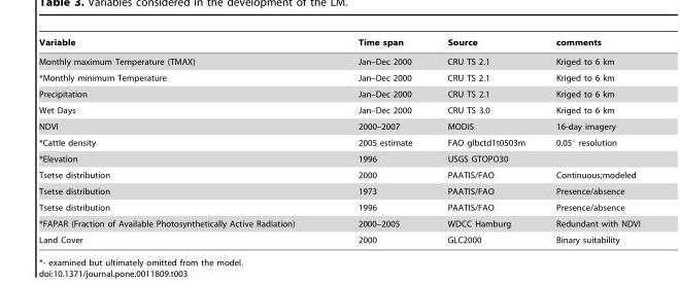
<table><thead><tr><td>Variable</td><td>Time span</td><td>Source</td><td>comments</td></tr></thead><tbody><tr><td>Monthly maximum Temperature (TMAX)</td><td>Jan–Dec 2000</td><td>CRU TS 2.1</td><td>Kriged to 6 km</td></tr><tr><td>*Monthly minimum Temperature</td><td>Jan–Dec 2000</td><td>CRU TS 2.1</td><td>Kriged to 6 km</td></tr><tr><td>Precipitation</td><td>Jan–Dec 2000</td><td>CRU TS 2.1</td><td>Kriged to 6 km</td></tr><tr><td>Wet Days</td><td>Jan–Dec 2000</td><td>CRU TS 3.0</td><td>Kriged to 6 km</td></tr><tr><td>NDVI</td><td>2000–2007</td><td>MODIS</td><td>16-day imagery</td></tr><tr><td>*Cattle density</td><td>2005 estimate</td><td>FAO glbctd1t0503m</td><td>0.05° resolution</td></tr><tr><td>*Elevation</td><td>1996</td><td>USGS GTOPO30</td><td></td></tr><tr><td>Tsetse distribution</td><td>2000</td><td>PAATIS/FAO</td><td>Continuous;modeled</td></tr><tr><td>Tsetse distribution</td><td>1973</td><td>PAATIS/FAO</td><td>Presence/absence</td></tr><tr><td>Tsetse distribution</td><td>1996</td><td>PAATIS/FAO</td><td>Presence/absence</td></tr><tr><td>*FAPAR (Fraction of Available Photosynthetically Active Radiation)</td><td>2000–2005</td><td>WDCC Hamburg</td><td>Redundant with NDVI</td></tr><tr><td>Land Cover</td><td>2000</td><td>GLC2000</td><td>Binary suitability</td></tr></tbody></table>